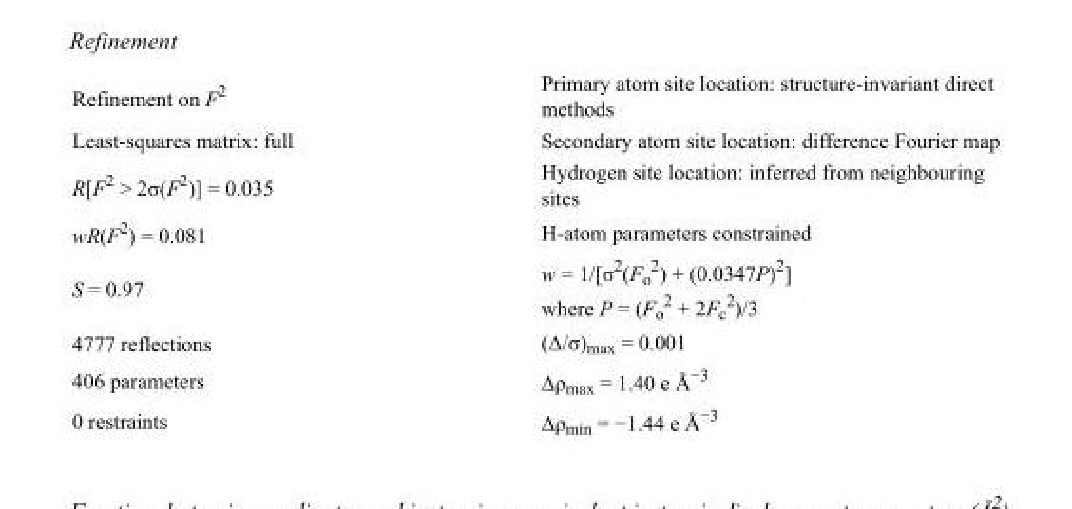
<table><tbody><tr><td>Refinement on F<sup>2</sup></td><td>Primary atom site location: structure-invariant direct methods</td></tr><tr><td>Least-squares matrix: full</td><td>Secondary atom site location: difference Fourier map</td></tr><tr><td>R[F<sup>2</sup> &gt; 2σ(F<sup>2</sup>)] = 0.035</td><td>Hydrogen site location: inferred from neighbouring sites</td></tr><tr><td>wR(F<sup>2</sup>) = 0.081</td><td>H-atom parameters constrained</td></tr><tr><td>S = 0.97</td><td>w = 1/[σ<sup>2</sup>(F<sub>o</sub> <sup>2</sup>) + (0.0347P)<sup>2</sup>] where P = (F<sub>o</sub> <sup>2</sup> + 2F<sub>c</sub> <sup>2</sup>)/3</td></tr><tr><td>4777 reflections</td><td>(Δ/σ)<sub>max</sub> = 0.001</td></tr><tr><td>406 parameters</td><td>Δρ<sub>max</sub> = 1.40 e Å<sup>−3</sup></td></tr><tr><td>0 restraints</td><td>Δρ<sub>min</sub> = −1.44 e Å<sup>−3</sup></td></tr></tbody></table>